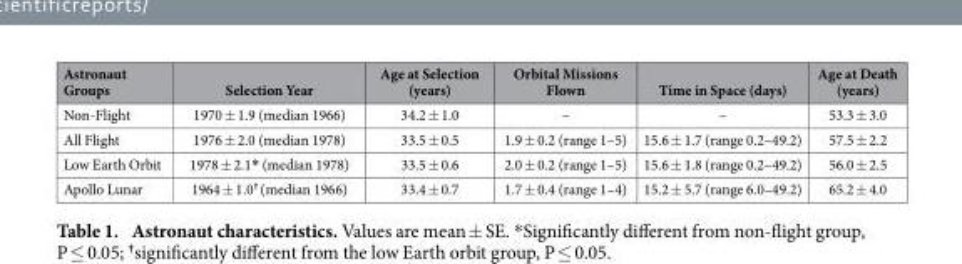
<table><thead><tr><td>Astronaut Groups</td><td>Selection Year</td><td>Age at Selection (years)</td><td>Orbital Missions Flown</td><td>Time in Space (days)</td><td>Age at Death (years)</td></tr></thead><tbody><tr><td>Non-Flight</td><td>1970 ± 1.9 (median 1966)</td><td>34.2 ± 1.0</td><td>–</td><td>–</td><td>53.3 ± 3.0</td></tr><tr><td>All Flight</td><td>1976 ± 2.0 (median 1978)</td><td>33.5 ± 0.5</td><td>1.9 ± 0.2 (range 1–5)</td><td>15.6 ± 1.7 (range 0.2–49.2)</td><td>57.5 ± 2.2</td></tr><tr><td>Low Earth Orbit</td><td>1978 ± 2.1* (median 1978)</td><td>33.5 ± 0.6</td><td>2.0 ± 0.2 (range 1–5)</td><td>15.6 ± 1.8 (range 0.2–49.2)</td><td>56.0 ± 2.5</td></tr><tr><td>Apollo Lunar</td><td>1964 ± 1.0<sup>†</sup> (median 1966)</td><td>33.4 ± 0.7</td><td>1.7 ± 0.4 (range 1–4)</td><td>15.2 ± 5.7 (range 6.0–49.2)</td><td>65.2 ± 4.0</td></tr></tbody></table>